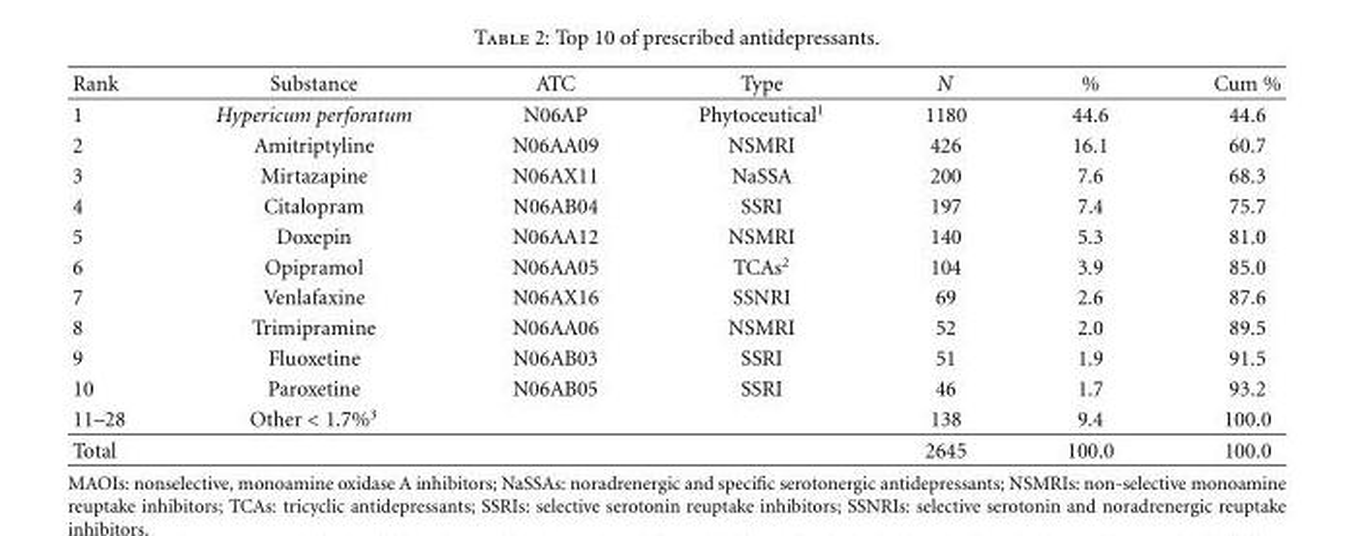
<table><thead><tr><td>Rank</td><td>Substance</td><td>ATC</td><td>Type</td><td>N</td><td>%</td><td>Cum %</td></tr></thead><tbody><tr><td>1</td><td>Hypericum perforatum</td><td>N06AP</td><td>Phytoceutical<sup>1</sup></td><td>1180</td><td>44.6</td><td>44.6</td></tr><tr><td>2</td><td>Amitriptyline</td><td>N06AA09</td><td>NSMRI</td><td>426</td><td>16.1</td><td>60.7</td></tr><tr><td>3</td><td>Mirtazapine</td><td>N06AX11</td><td>NaSSA</td><td>200</td><td>7.6</td><td>68.3</td></tr><tr><td>4</td><td>Citalopram</td><td>N06AB04</td><td>SSRI</td><td>197</td><td>7.4</td><td>75.7</td></tr><tr><td>5</td><td>Doxepin</td><td>N06AA12</td><td>NSMRI</td><td>140</td><td>5.3</td><td>81.0</td></tr><tr><td>6</td><td>Opipramol</td><td>N06AA05</td><td>TCAs<sup>2</sup></td><td>104</td><td>3.9</td><td>85.0</td></tr><tr><td>7</td><td>Venlafaxine</td><td>N06AX16</td><td>SSNRI</td><td>69</td><td>2.6</td><td>87.6</td></tr><tr><td>8</td><td>Trimipramine</td><td>N06AA06</td><td>NSMRI</td><td>52</td><td>2.0</td><td>89.5</td></tr><tr><td>9</td><td>Fluoxetine</td><td>N06AB03</td><td>SSRI</td><td>51</td><td>1.9</td><td>91.5</td></tr><tr><td>10</td><td>Paroxetine</td><td>N06AB05</td><td>SSRI</td><td>46</td><td>1.7</td><td>93.2</td></tr><tr><td>11–28</td><td>Other &lt; 1.7%<sup>3</sup></td><td></td><td></td><td>138</td><td>9.4</td><td>100.0</td></tr><tr><td>Total</td><td></td><td></td><td></td><td>2645</td><td>100.0</td><td>100.0</td></tr></tbody></table>